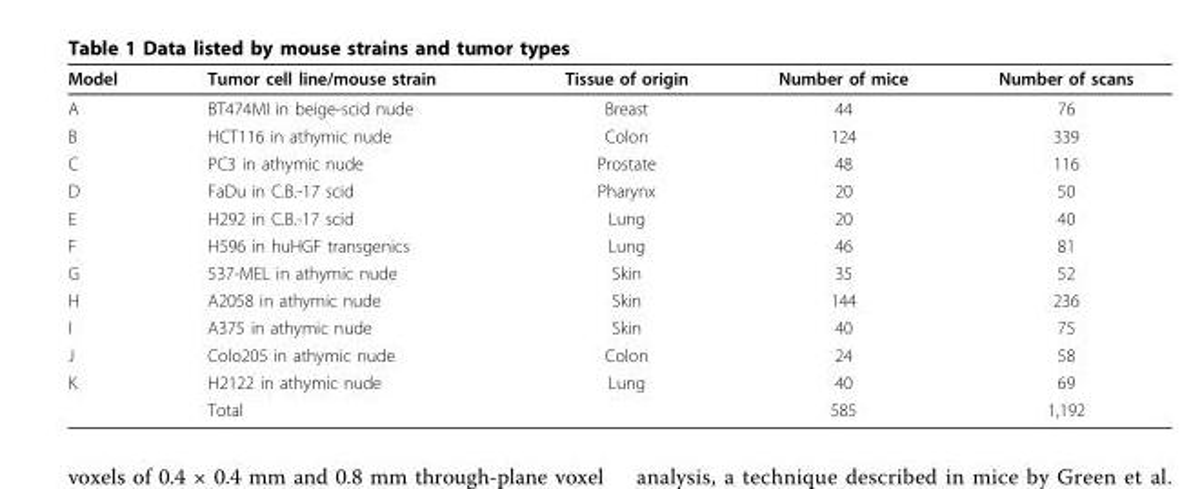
<table><thead><tr><td>Model</td><td>Tumor cell line/mouse strain</td><td>Tissue of origin</td><td>Number of mice</td><td>Number of scans</td></tr></thead><tbody><tr><td>A</td><td>BT474MI in beige-scid nude</td><td>Breast</td><td>44</td><td>76</td></tr><tr><td>B</td><td>HCT116 in athymic nude</td><td>Colon</td><td>124</td><td>339</td></tr><tr><td>C</td><td>PC3 in athymic nude</td><td>Prostate</td><td>48</td><td>116</td></tr><tr><td>D</td><td>FaDu in C.B.-17 scid</td><td>Pharynx</td><td>20</td><td>50</td></tr><tr><td>E</td><td>H292 in C.B.-17 scid</td><td>Lung</td><td>20</td><td>40</td></tr><tr><td>F</td><td>H596 in huHGF transgenics</td><td>Lung</td><td>46</td><td>81</td></tr><tr><td>G</td><td>537-MEL in athymic nude</td><td>Skin</td><td>35</td><td>52</td></tr><tr><td>H</td><td>A2058 in athymic nude</td><td>Skin</td><td>144</td><td>236</td></tr><tr><td>I</td><td>A375 in athymic nude</td><td>Skin</td><td>40</td><td>75</td></tr><tr><td>J</td><td>Colo205 in athymic nude</td><td>Colon</td><td>24</td><td>58</td></tr><tr><td rowspan="2">K</td><td>H2122 in athymic nude</td><td>Lung</td><td>40</td><td>69</td></tr><tr><td>Total</td><td></td><td>585</td><td>1,192</td></tr></tbody></table>